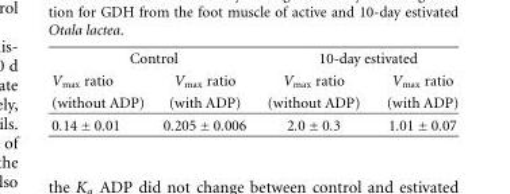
<table><thead><tr><td colspan="2">Control</td><td colspan="2">10-day estivated</td></tr><tr><td rowspan="2">V<sub>max</sub> ratio (without ADP)</td><td rowspan="2">V<sub>max</sub> ratio (with ADP)</td><td rowspan="2">V<sub>max</sub> ratio (without ADP)</td><td rowspan="2">V<sub>max</sub> ratio (with ADP)</td></tr><tr></tr></thead><tbody><tr><td>0.14 ± 0.01</td><td>0.205 ± 0.006</td><td>2.0 ± 0.3</td><td>1.01 ± 0.07</td></tr></tbody></table>